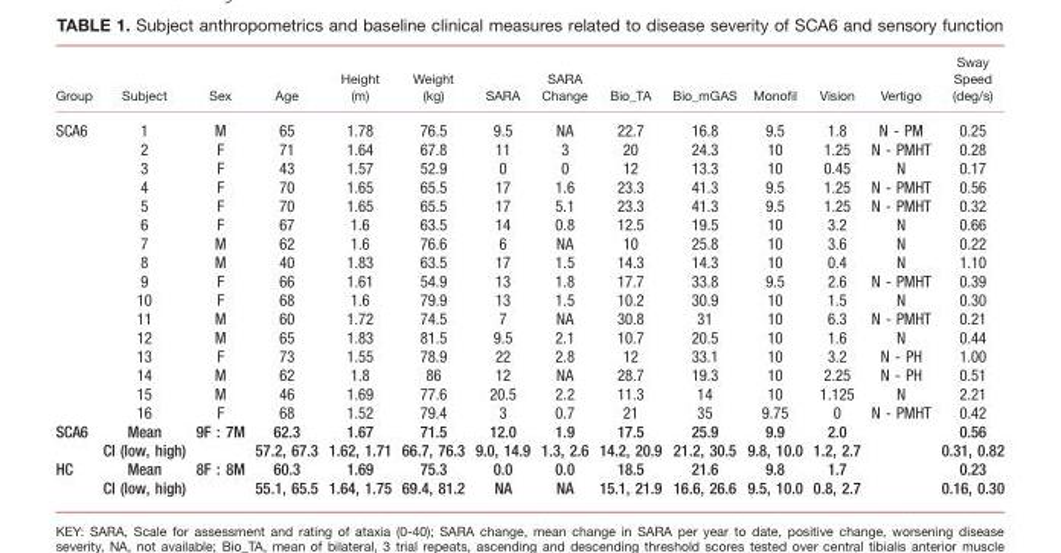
<table><thead><tr><td>Group</td><td>Subject</td><td>Sex</td><td>Age</td><td>Height (m)</td><td>Weight (kg)</td><td>SARA</td><td>SARA Change</td><td>Bio_TA</td><td>Bio_mGAS</td><td>Monofil</td><td>Vision</td><td>Vertigo</td><td>Sway Speed (deg/s)</td></tr></thead><tbody><tr><td rowspan="16">SCA6</td><td>1</td><td>M</td><td>65</td><td>1.78</td><td>76.5</td><td>9.5</td><td>NA</td><td>22.7</td><td>16.8</td><td>9.5</td><td>1.8</td><td>N - PM</td><td>0.25</td></tr><tr><td>2</td><td>F</td><td>71</td><td>1.64</td><td>67.8</td><td>11</td><td>3</td><td>20</td><td>24.3</td><td>10</td><td>1.25</td><td>N - PMHT</td><td>0.28</td></tr><tr><td>3</td><td>F</td><td>43</td><td>1.57</td><td>52.9</td><td>0</td><td>0</td><td>12</td><td>13.3</td><td>10</td><td>0.45</td><td>N</td><td>0.17</td></tr><tr><td>4</td><td>F</td><td>70</td><td>1.65</td><td>65.5</td><td>17</td><td>1.6</td><td>23.3</td><td>41.3</td><td>9.5</td><td>1.25</td><td>N - PMHT</td><td>0.56</td></tr><tr><td>5</td><td>F</td><td>70</td><td>1.65</td><td>65.5</td><td>17</td><td>5.1</td><td>23.3</td><td>41.3</td><td>9.5</td><td>1.25</td><td>N - PMHT</td><td>0.32</td></tr><tr><td>6</td><td>F</td><td>67</td><td>1.6</td><td>63.5</td><td>14</td><td>0.8</td><td>12.5</td><td>19.5</td><td>10</td><td>3.2</td><td>N</td><td>0.66</td></tr><tr><td>7</td><td>M</td><td>62</td><td>1.6</td><td>76.6</td><td>6</td><td>NA</td><td>10</td><td>25.8</td><td>10</td><td>3.6</td><td>N</td><td>0.22</td></tr><tr><td>8</td><td>M</td><td>40</td><td>1.83</td><td>63.5</td><td>17</td><td>1.5</td><td>14.3</td><td>14.3</td><td>10</td><td>0.4</td><td>N</td><td>1.10</td></tr><tr><td>9</td><td>F</td><td>66</td><td>1.61</td><td>54.9</td><td>13</td><td>1.8</td><td>17.7</td><td>33.8</td><td>9.5</td><td>2.6</td><td>N - PMHT</td><td>0.39</td></tr><tr><td>10</td><td>F</td><td>68</td><td>1.6</td><td>79.9</td><td>13</td><td>1.5</td><td>10.2</td><td>30.9</td><td>10</td><td>1.5</td><td>N</td><td>0.30</td></tr><tr><td>11</td><td>M</td><td>60</td><td>1.72</td><td>74.5</td><td>7</td><td>NA</td><td>30.8</td><td>31</td><td>10</td><td>6.3</td><td>N - PMHT</td><td>0.21</td></tr><tr><td>12</td><td>M</td><td>65</td><td>1.83</td><td>81.5</td><td>9.5</td><td>2.1</td><td>10.7</td><td>20.5</td><td>10</td><td>1.6</td><td>N</td><td>0.44</td></tr><tr><td>13</td><td>F</td><td>73</td><td>1.55</td><td>78.9</td><td>22</td><td>2.8</td><td>12</td><td>33.1</td><td>10</td><td>3.2</td><td>N - PH</td><td>1.00</td></tr><tr><td>14</td><td>M</td><td>62</td><td>1.8</td><td>86</td><td>12</td><td>NA</td><td>28.7</td><td>19.3</td><td>10</td><td>2.25</td><td>N - PH</td><td>0.51</td></tr><tr><td>15</td><td>M</td><td>46</td><td>1.69</td><td>77.6</td><td>20.5</td><td>2.2</td><td>11.3</td><td>14</td><td>10</td><td>1.125</td><td>N</td><td>2.21</td></tr><tr><td>16</td><td>F</td><td>68</td><td>1.52</td><td>79.4</td><td>3</td><td>0.7</td><td>21</td><td>35</td><td>9.75</td><td>0</td><td>N - PMHT</td><td>0.42</td></tr><tr><td rowspan="2">SCA6</td><td>Mean</td><td>9F : 7M</td><td>62.3</td><td>1.67</td><td>71.5</td><td>12.0</td><td>1.9</td><td>17.5</td><td>25.9</td><td>9.9</td><td>2.0</td><td></td><td>0.56</td></tr><tr><td>CI (low, high)</td><td></td><td>57.2, 67.3</td><td>1.62, 1.71</td><td>66.7, 76.3</td><td>9.0, 14.9</td><td>1.3, 2.6</td><td>14.2, 20.9</td><td>21.2, 30.5</td><td>9.8, 10.0</td><td>1.2, 2.7</td><td></td><td>0.31, 0.82</td></tr><tr><td rowspan="2">HC</td><td>Mean</td><td>8F : 8M</td><td>60.3</td><td>1.69</td><td>75.3</td><td>0.0</td><td>0.0</td><td>18.5</td><td>21.6</td><td>9.8</td><td>1.7</td><td></td><td>0.23</td></tr><tr><td>CI (low, high)</td><td></td><td>55.1, 65.5</td><td>1.64, 1.75</td><td>69.4, 81.2</td><td>NA</td><td>NA</td><td>15.1, 21.9</td><td>16.6, 26.6</td><td>9.5, 10.0</td><td>0.8, 2.7</td><td></td><td>0.16, 0.30</td></tr></tbody></table>